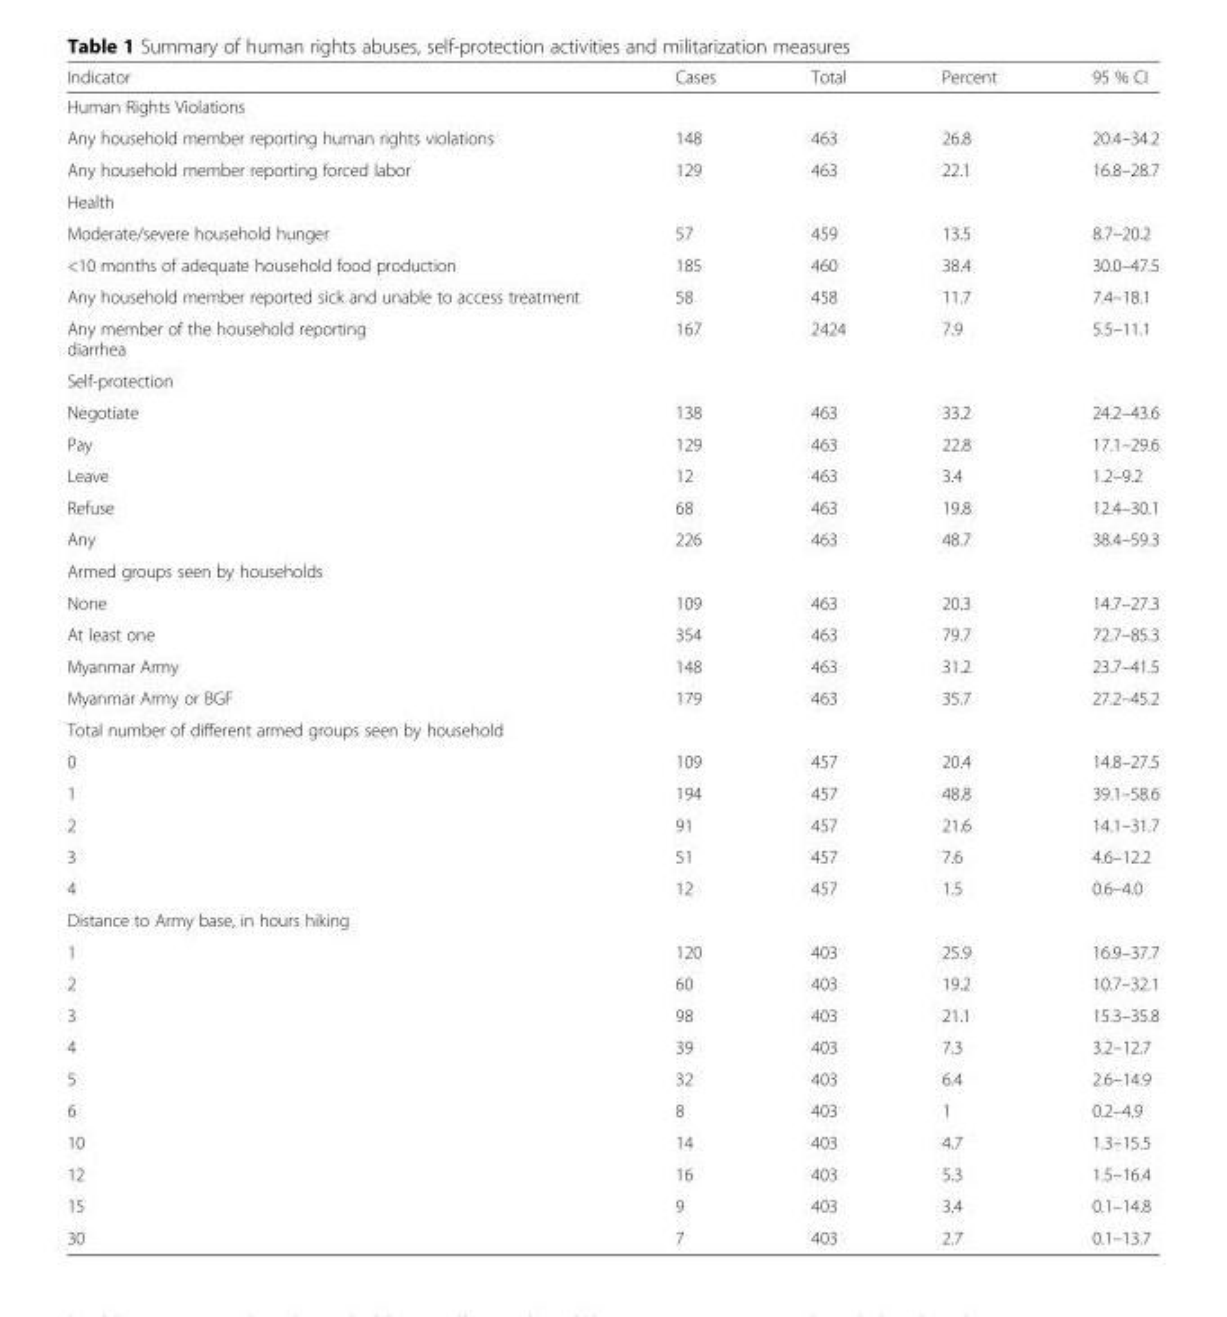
<table><thead><tr><td>Indicator</td><td>Cases</td><td>Total</td><td>Percent</td><td>95 % CI</td></tr></thead><tbody><tr><td colspan="5">Human Rights Violations</td></tr><tr><td>Any household member reporting human rights violations</td><td>148</td><td>463</td><td>26.8</td><td>20.4–34.2</td></tr><tr><td>Any household member reporting forced labor</td><td>129</td><td>463</td><td>22.1</td><td>16.8–28.7</td></tr><tr><td colspan="5">Health</td></tr><tr><td>Moderate/severe household hunger</td><td>57</td><td>459</td><td>13.5</td><td>8.7–20.2</td></tr><tr><td>&lt;10 months of adequate household food production</td><td>185</td><td>460</td><td>38.4</td><td>30.0–47.5</td></tr><tr><td>Any household member reported sick and unable to access treatment</td><td>58</td><td>458</td><td>11.7</td><td>7.4–18.1</td></tr><tr><td>Any member of the household reporting diarrhea</td><td>167</td><td>2424</td><td>7.9</td><td>5.5–11.1</td></tr><tr><td colspan="5">Self-protection</td></tr><tr><td>Negotiate</td><td>138</td><td>463</td><td>33.2</td><td>24.2–43.6</td></tr><tr><td>Pay</td><td>129</td><td>463</td><td>22.8</td><td>17.1–29.6</td></tr><tr><td>Leave</td><td>12</td><td>463</td><td>3.4</td><td>1.2–9.2</td></tr><tr><td>Refuse</td><td>68</td><td>463</td><td>19.8</td><td>12.4–30.1</td></tr><tr><td>Any</td><td>226</td><td>463</td><td>48.7</td><td>38.4–59.3</td></tr><tr><td colspan="5">Armed groups seen by households</td></tr><tr><td>None</td><td>109</td><td>463</td><td>20.3</td><td>14.7–27.3</td></tr><tr><td>At least one</td><td>354</td><td>463</td><td>79.7</td><td>72.7–85.3</td></tr><tr><td>Myanmar Army</td><td>148</td><td>463</td><td>31.2</td><td>23.7–41.5</td></tr><tr><td>Myanmar Army or BGF</td><td>179</td><td>463</td><td>35.7</td><td>27.2–45.2</td></tr><tr><td colspan="5">Total number of different armed groups seen by household</td></tr><tr><td>0</td><td>109</td><td>457</td><td>20.4</td><td>14.8–27.5</td></tr><tr><td>1</td><td>194</td><td>457</td><td>48.8</td><td>39.1–58.6</td></tr><tr><td>2</td><td>91</td><td>457</td><td>21.6</td><td>14.1–31.7</td></tr><tr><td>3</td><td>51</td><td>457</td><td>7.6</td><td>4.6–12.2</td></tr><tr><td>4</td><td>12</td><td>457</td><td>1.5</td><td>0.6–4.0</td></tr><tr><td colspan="5">Distance to Army base, in hours hiking</td></tr><tr><td>1</td><td>120</td><td>403</td><td>25.9</td><td>16.9–37.7</td></tr><tr><td>2</td><td>60</td><td>403</td><td>19.2</td><td>10.7–32.1</td></tr><tr><td>3</td><td>98</td><td>403</td><td>21.1</td><td>15.3–35.8</td></tr><tr><td>4</td><td>39</td><td>403</td><td>7.3</td><td>3.2–12.7</td></tr><tr><td>5</td><td>32</td><td>403</td><td>6.4</td><td>2.6–14.9</td></tr><tr><td>6</td><td>8</td><td>403</td><td>1</td><td>0.2–4.9</td></tr><tr><td>10</td><td>14</td><td>403</td><td>4.7</td><td>1.3–15.5</td></tr><tr><td>12</td><td>16</td><td>403</td><td>5.3</td><td>1.5–16.4</td></tr><tr><td>15</td><td>9</td><td>403</td><td>3.4</td><td>0.1–14.8</td></tr><tr><td>30</td><td>7</td><td>403</td><td>2.7</td><td>0.1–13.7</td></tr></tbody></table>